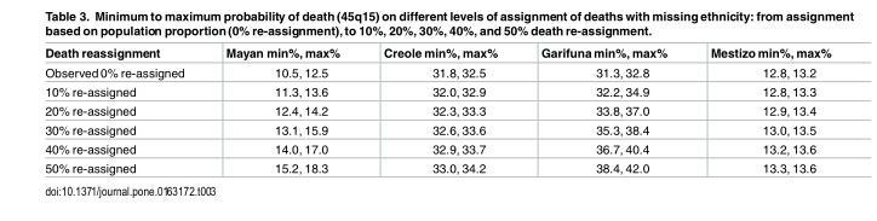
<table><thead><tr><td>Death reassignment</td><td>Mayan min%, max%</td><td>Creole min%, max%</td><td>Garifuna min%, max%</td><td>Mestizo min%, max%</td></tr></thead><tbody><tr><td>Observed 0% re-assigned</td><td>10.5, 12.5</td><td>31.8, 32.5</td><td>31.3, 32.8</td><td>12.8, 13.2</td></tr><tr><td>10% re-assigned</td><td>11.3, 13.6</td><td>32.0, 32.9</td><td>32.2, 34.9</td><td>12.8, 13.3</td></tr><tr><td>20% re-assigned</td><td>12.4, 14.2</td><td>32.3, 33.3</td><td>33.8, 37.0</td><td>12.9, 13.4</td></tr><tr><td>30% re-assigned</td><td>13.1, 15.9</td><td>32.6, 33.6</td><td>35.3, 38.4</td><td>13.0, 13.5</td></tr><tr><td>40% re-assigned</td><td>14.0, 17.0</td><td>32.9, 33.7</td><td>36.7, 40.4</td><td>13.2, 13.6</td></tr><tr><td>50% re-assigned</td><td>15.2, 18.3</td><td>33.0, 34.2</td><td>38.4, 42.0</td><td>13.3, 13.6</td></tr></tbody></table>